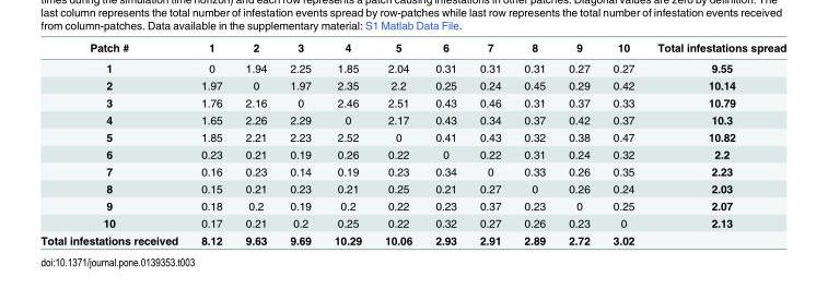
<table><thead><tr><td>Patch #</td><td>1</td><td>2</td><td>3</td><td>4</td><td>5</td><td>6</td><td>7</td><td>8</td><td>9</td><td>10</td><td>Total infestations spread</td></tr></thead><tbody><tr><td>1</td><td>0</td><td>1.94</td><td>2.25</td><td>1.85</td><td>2.04</td><td>0.31</td><td>0.31</td><td>0.31</td><td>0.27</td><td>0.27</td><td>9.55</td></tr><tr><td>2</td><td>1.97</td><td>0</td><td>1.97</td><td>2.35</td><td>2.2</td><td>0.25</td><td>0.24</td><td>0.45</td><td>0.29</td><td>0.42</td><td>10.14</td></tr><tr><td>3</td><td>1.76</td><td>2.16</td><td>0</td><td>2.46</td><td>2.51</td><td>0.43</td><td>0.46</td><td>0.31</td><td>0.37</td><td>0.33</td><td>10.79</td></tr><tr><td>4</td><td>1.65</td><td>2.26</td><td>2.29</td><td>0</td><td>2.17</td><td>0.43</td><td>0.34</td><td>0.37</td><td>0.42</td><td>0.37</td><td>10.3</td></tr><tr><td>5</td><td>1.85</td><td>2.21</td><td>2.23</td><td>2.52</td><td>0</td><td>0.41</td><td>0.43</td><td>0.32</td><td>0.38</td><td>0.47</td><td>10.82</td></tr><tr><td>6</td><td>0.23</td><td>0.21</td><td>0.19</td><td>0.26</td><td>0.22</td><td>0</td><td>0.22</td><td>0.31</td><td>0.24</td><td>0.32</td><td>2.2</td></tr><tr><td>7</td><td>0.16</td><td>0.23</td><td>0.14</td><td>0.19</td><td>0.23</td><td>0.34</td><td>0</td><td>0.33</td><td>0.26</td><td>0.35</td><td>2.23</td></tr><tr><td>8</td><td>0.15</td><td>0.21</td><td>0.23</td><td>0.21</td><td>0.25</td><td>0.21</td><td>0.27</td><td>0</td><td>0.26</td><td>0.24</td><td>2.03</td></tr><tr><td>9</td><td>0.18</td><td>0.2</td><td>0.19</td><td>0.2</td><td>0.22</td><td>0.23</td><td>0.37</td><td>0.23</td><td>0</td><td>0.25</td><td>2.07</td></tr><tr><td>10</td><td>0.17</td><td>0.21</td><td>0.2</td><td>0.25</td><td>0.22</td><td>0.32</td><td>0.27</td><td>0.26</td><td>0.23</td><td>0</td><td>2.13</td></tr><tr><td>Total infestations received</td><td>8.12</td><td>9.63</td><td>9.69</td><td>10.29</td><td>10.06</td><td>2.93</td><td>2.91</td><td>2.89</td><td>2.72</td><td>3.02</td><td></td></tr></tbody></table>